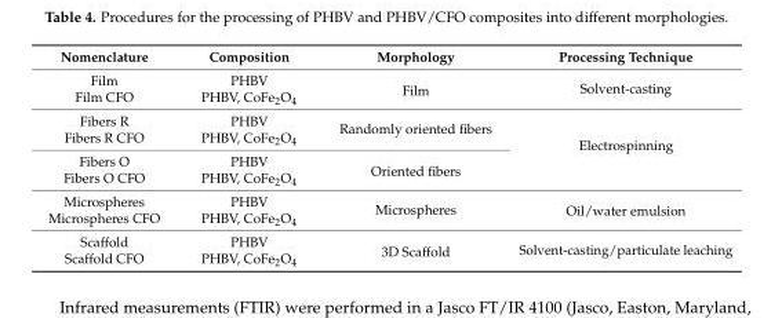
<table><thead><tr><td>Nomenclature</td><td>Composition</td><td>Morphology</td><td>Processing Technique</td></tr></thead><tbody><tr><td>Film</td><td>PHBV</td><td rowspan="2">Film</td><td rowspan="2">Solvent-casting</td></tr><tr><td>Film CFO</td><td>PHBV, CoFe<sub>2</sub>O<sub>4</sub></td></tr><tr><td>Fibers R</td><td>PHBV</td><td rowspan="2">Randomly oriented fibers</td><td rowspan="4">Electrospinning</td></tr><tr><td>Fibers R CFO</td><td>PHBV, CoFe<sub>2</sub>O<sub>4</sub></td></tr><tr><td>Fibers O</td><td>PHBV</td><td rowspan="2">Oriented fibers</td></tr><tr><td>Fibers O CFO</td><td>PHBV, CoFe<sub>2</sub>O<sub>4</sub></td></tr><tr><td>Microspheres</td><td>PHBV</td><td rowspan="2">Microspheres</td><td rowspan="2">Oil/water emulsion</td></tr><tr><td>Microspheres CFO</td><td>PHBV, CoFe<sub>2</sub>O<sub>4</sub></td></tr><tr><td>Scaffold</td><td>PHBV</td><td rowspan="2">3D Scaffold</td><td rowspan="2">Solvent-casting/particulate leaching</td></tr><tr><td>Scaffold CFO</td><td>PHBV, CoFe<sub>2</sub>O<sub>4</sub></td></tr></tbody></table>